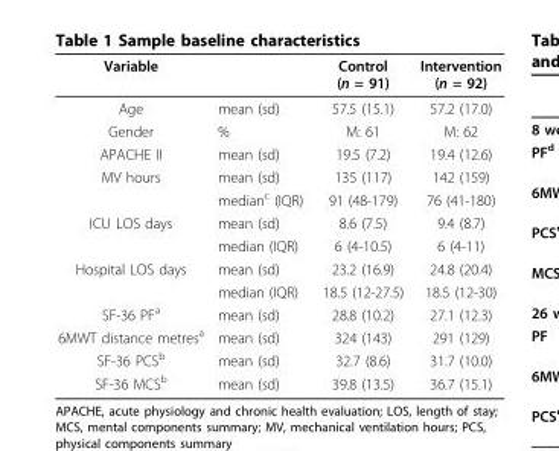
<table><thead><tr><td>Variable</td><td></td><td>Control (n = 91)</td><td>Intervention (n = 92)</td></tr></thead><tbody><tr><td>Age</td><td>mean (sd)</td><td>57.5 (15.1)</td><td>57.2 (17.0)</td></tr><tr><td>Gender</td><td>%</td><td>M: 61</td><td>M: 62</td></tr><tr><td>APACHE II</td><td>mean (sd)</td><td>19.5 (7.2)</td><td>19.4 (12.6)</td></tr><tr><td rowspan="2">MV hours</td><td>mean (sd)</td><td>135 (117)</td><td>142 (159)</td></tr><tr><td>median<sup>c</sup> (IQR)</td><td>91 (48-179)</td><td>76 (41-180)</td></tr><tr><td rowspan="2">ICU LOS days</td><td>mean (sd)</td><td>8.6 (7.5)</td><td>9.4 (8.7)</td></tr><tr><td>median (IQR)</td><td>6 (4-10.5)</td><td>6 (4-11)</td></tr><tr><td rowspan="2">Hospital LOS days</td><td>mean (sd)</td><td>23.2 (16.9)</td><td>24.8 (20.4)</td></tr><tr><td>median (IQR)</td><td>18.5 (12-27.5)</td><td>18.5 (12-30)</td></tr><tr><td>SF-36 PF<sup>a</sup></td><td>mean (sd)</td><td>28.8 (10.2)</td><td>27.1 (12.3)</td></tr><tr><td>6MWT distance metres<sup>a</sup></td><td>mean (sd)</td><td>324 (143)</td><td>291 (129)</td></tr><tr><td>SF-36 PCS<sup>b</sup></td><td>mean (sd)</td><td>32.7 (8.6)</td><td>31.7 (10.0)</td></tr><tr><td>SF-36 MCS<sup>b</sup></td><td>mean (sd)</td><td>39.8 (13.5)</td><td>36.7 (15.1)</td></tr></tbody></table>